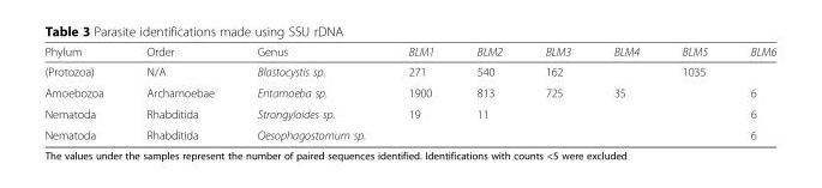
<table><thead><tr><td>Phylum</td><td>Order</td><td>Genus</td><td>BLM1</td><td>BLM2</td><td>BLM3</td><td>BLM4</td><td>BLM5</td><td>BLM6</td></tr></thead><tbody><tr><td>(Protozoa)</td><td>N/A</td><td>Blastocystis sp.</td><td>271</td><td>540</td><td>162</td><td></td><td>1035</td><td></td></tr><tr><td>Amoebozoa</td><td>Archamoebae</td><td>Entamoeba sp.</td><td>1900</td><td>813</td><td>725</td><td>35</td><td></td><td>6</td></tr><tr><td>Nematoda</td><td>Rhabditida</td><td>Strongyloides sp.</td><td>19</td><td>11</td><td></td><td></td><td></td><td>6</td></tr><tr><td>Nematoda</td><td>Rhabditida</td><td>Oesophagostomum sp.</td><td></td><td></td><td></td><td></td><td></td><td>6</td></tr></tbody></table>